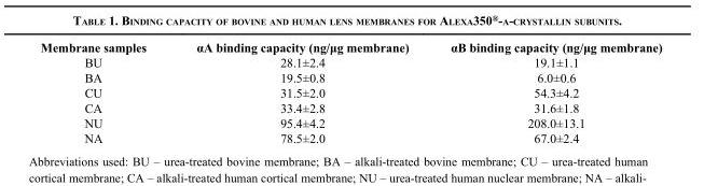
<table><thead><tr><td>Membrane samples</td><td>αA binding capacity (ng/μg membrane)</td><td>αB binding capacity (ng/μg membrane)</td></tr></thead><tbody><tr><td>BU</td><td>28.1±2.4</td><td>19.1±1.1</td></tr><tr><td>BA</td><td>19.5±0.8</td><td>6.0±0.6</td></tr><tr><td>CU</td><td>31.5±2.0</td><td>54.3±4.2</td></tr><tr><td>CA</td><td>33.4±2.8</td><td>31.6±1.8</td></tr><tr><td>NU</td><td>95.4±4.2</td><td>208.0±13.1</td></tr><tr><td>NA</td><td>78.5±2.0</td><td>67.0±2.4</td></tr></tbody></table>